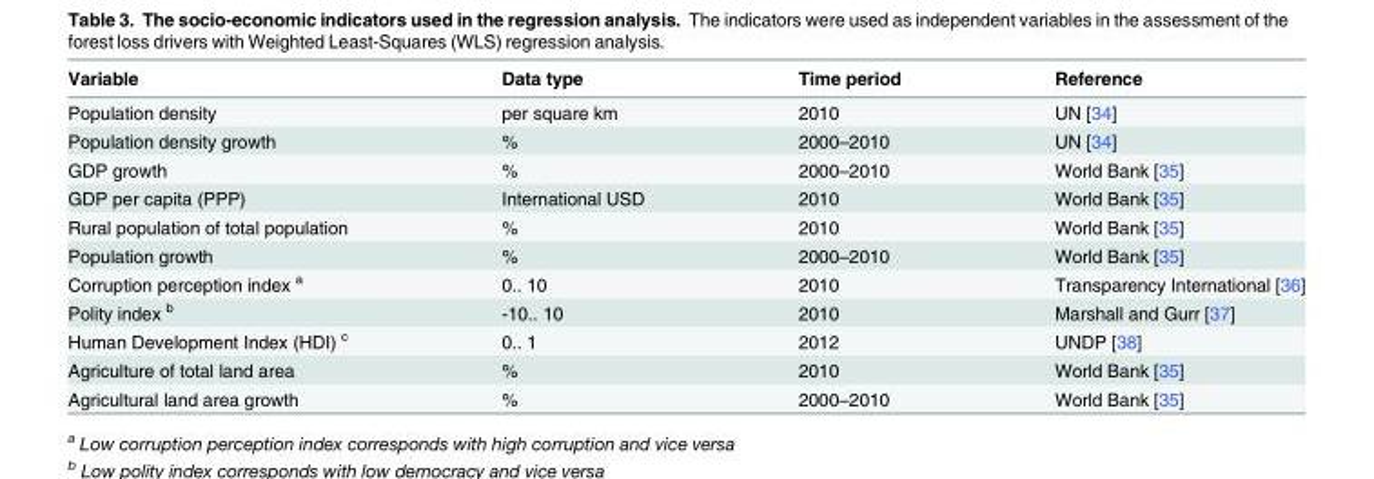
<table><thead><tr><td>Variable</td><td>Data type</td><td>Time period</td><td>Reference</td></tr></thead><tbody><tr><td>Population density</td><td>per square km</td><td>2010</td><td>UN [34]</td></tr><tr><td>Population density growth</td><td>%</td><td>2000–2010</td><td>UN [34]</td></tr><tr><td>GDP growth</td><td>%</td><td>2000–2010</td><td>World Bank [35]</td></tr><tr><td>GDP per capita (PPP)</td><td>International USD</td><td>2010</td><td>World Bank [35]</td></tr><tr><td>Rural population of total population</td><td>%</td><td>2010</td><td>World Bank [35]</td></tr><tr><td>Population growth</td><td>%</td><td>2000–2010</td><td>World Bank [35]</td></tr><tr><td>Corruption perception index <sup>a</sup></td><td>0.. 10</td><td>2010</td><td>Transparency International [36]</td></tr><tr><td>Polity index <sup>b</sup></td><td>-10.. 10</td><td>2010</td><td>Marshall and Gurr [37]</td></tr><tr><td>Human Development Index (HDI) <sup>c</sup></td><td>0.. 1</td><td>2012</td><td>UNDP [38]</td></tr><tr><td>Agriculture of total land area</td><td>%</td><td>2010</td><td>World Bank [35]</td></tr><tr><td>Agricultural land area growth</td><td>%</td><td>2000–2010</td><td>World Bank [35]</td></tr></tbody></table>